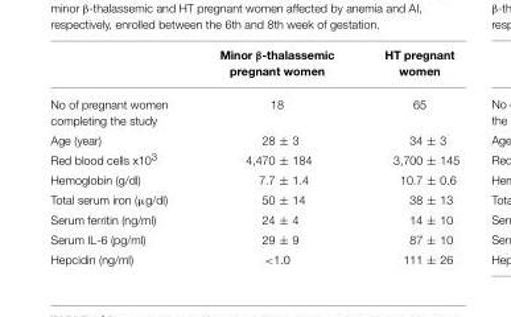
<table><thead><tr><td></td><td>Minor β-thalassemic pregnant women</td><td>HT pregnant women</td></tr></thead><tbody><tr><td>No of pregnant women completing the study</td><td>18</td><td>65</td></tr><tr><td>Age (year)</td><td>28 ± 3</td><td>34 ± 3</td></tr><tr><td>Red blood cells x10<sup>3</sup></td><td>4,470 ± 184</td><td>3,700 ± 145</td></tr><tr><td>Hemoglobin (g/dl)</td><td>7.7 ± 1.4</td><td>10.7 ± 0.6</td></tr><tr><td>Total serum iron (µg/dl)</td><td>50 ± 14</td><td>38 ± 13</td></tr><tr><td>Serum ferritin (ng/ml)</td><td>24 ± 4</td><td>14 ± 10</td></tr><tr><td>Serum IL-6 (pg/ml)</td><td>29 ± 9</td><td>87 ± 10</td></tr><tr><td>Hepcidin (ng/ml)</td><td>&lt;1.0</td><td>111 ± 26</td></tr></tbody></table>